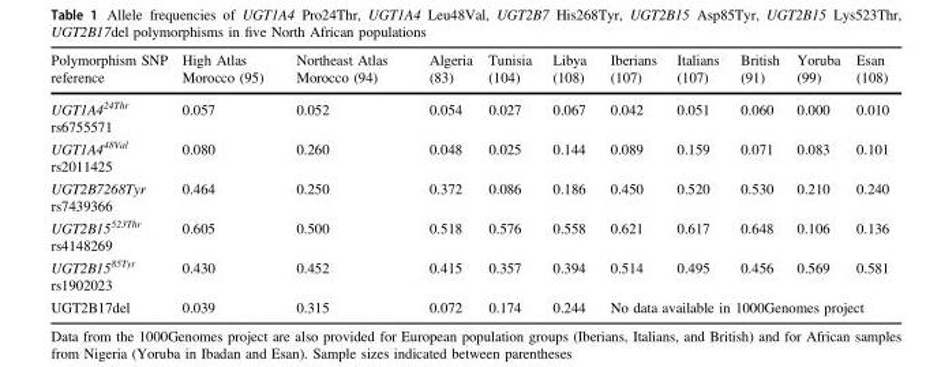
<table><thead><tr><td>Polymorphism SNP reference</td><td>High Atlas Morocco (95)</td><td>Northeast Atlas Morocco (94)</td><td>Algeria (83)</td><td>Tunisia (104)</td><td>Libya (108)</td><td>Iberians (107)</td><td>Italians (107)</td><td>British (91)</td><td>Yoruba (99)</td><td>Esan (108)</td></tr></thead><tbody><tr><td>UGT1A4<sup>24Thr</sup> rs6755571</td><td>0.057</td><td>0.052</td><td>0.054</td><td>0.027</td><td>0.067</td><td>0.042</td><td>0.051</td><td>0.060</td><td>0.000</td><td>0.010</td></tr><tr><td>UGT1A4<sup>48Val</sup> rs2011425</td><td>0.080</td><td>0.260</td><td>0.048</td><td>0.025</td><td>0.144</td><td>0.089</td><td>0.159</td><td>0.071</td><td>0.083</td><td>0.101</td></tr><tr><td>UGT2B7268Tyr rs7439366</td><td>0.464</td><td>0.250</td><td>0.372</td><td>0.086</td><td>0.186</td><td>0.450</td><td>0.520</td><td>0.530</td><td>0.210</td><td>0.240</td></tr><tr><td>UGT2B15<sup>523Thr</sup> rs4148269</td><td>0.605</td><td>0.500</td><td>0.518</td><td>0.576</td><td>0.558</td><td>0.621</td><td>0.617</td><td>0.648</td><td>0.106</td><td>0.136</td></tr><tr><td>UGT2B15<sup>85Tyr</sup> rs1902023</td><td>0.430</td><td>0.452</td><td>0.415</td><td>0.357</td><td>0.394</td><td>0.514</td><td>0.495</td><td>0.456</td><td>0.569</td><td>0.581</td></tr><tr><td>UGT2B17del</td><td>0.039</td><td>0.315</td><td>0.072</td><td>0.174</td><td>0.244</td><td colspan="5">No data available in 1000Genomes project</td></tr></tbody></table>